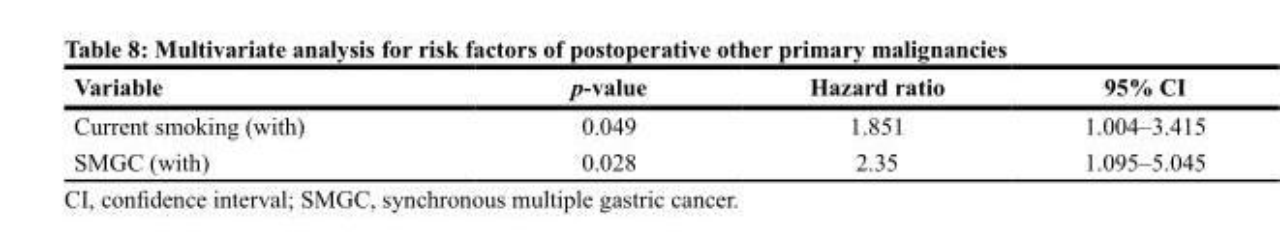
<table><thead><tr><td>Variable</td><td>p-value</td><td>Hazard ratio</td><td>95% CI</td></tr></thead><tbody><tr><td>Current smoking (with)</td><td>0.049</td><td>1.851</td><td>1.004–3.415</td></tr><tr><td>SMGC (with)</td><td>0.028</td><td>2.35</td><td>1.095–5.045</td></tr></tbody></table>